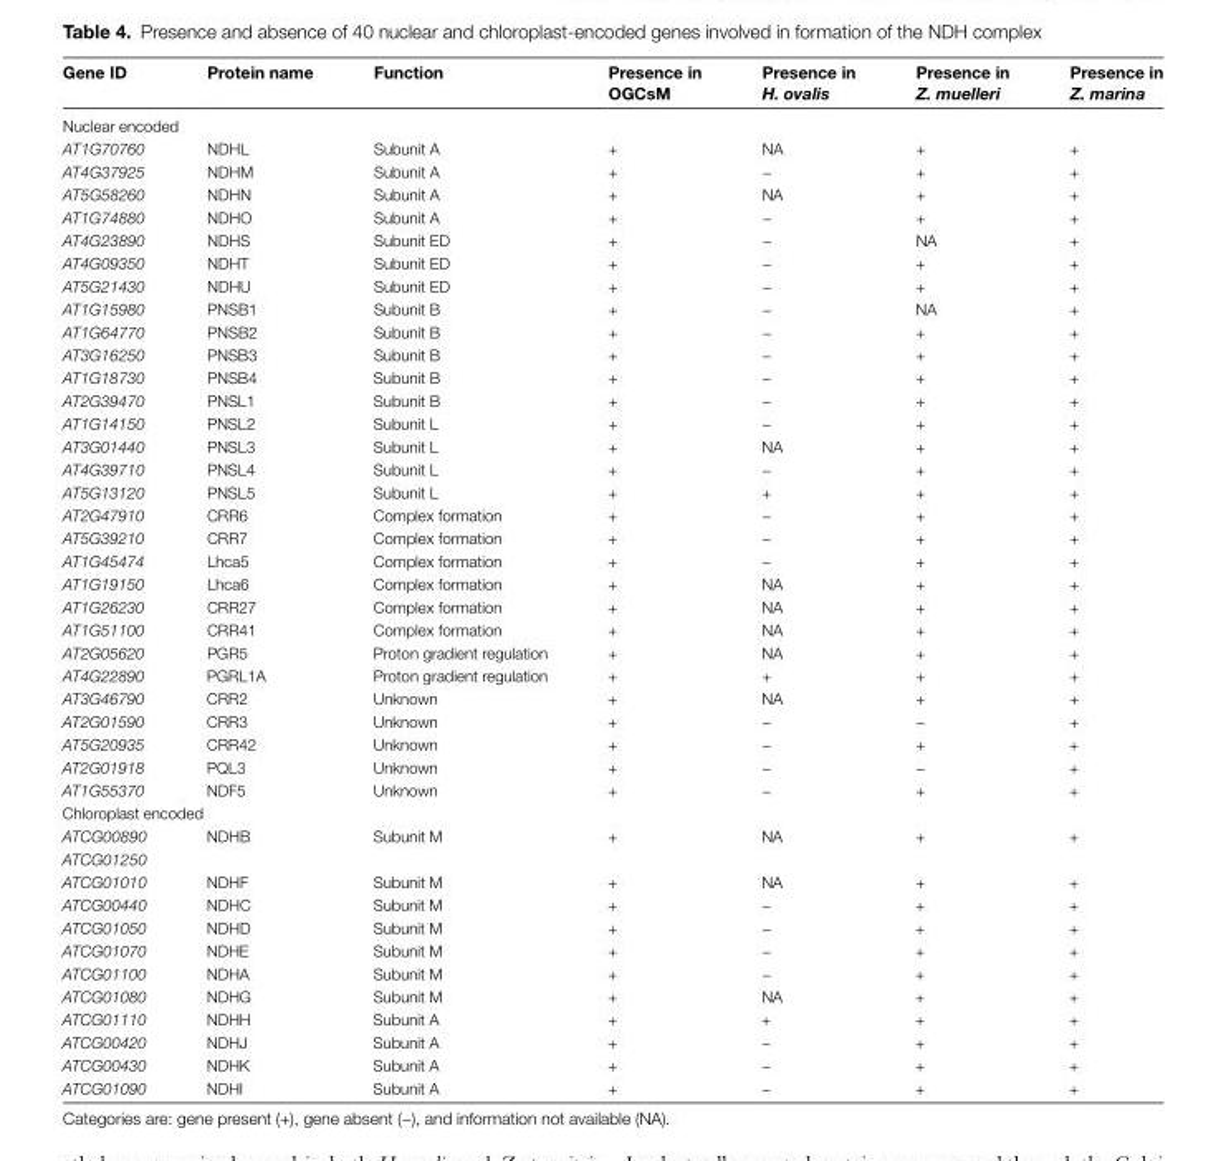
<table><thead><tr><td>Gene ID</td><td>Protein name</td><td>Function</td><td>Presence in OGCsM</td><td>Presence in H. ovalis</td><td>Presence in Z. muelleri</td><td>Presence in Z. marina</td></tr></thead><tbody><tr><td colspan="7">Nuclear encoded</td></tr><tr><td>AT1G70760</td><td>NDHL</td><td>Subunit A</td><td>+</td><td>NA</td><td>+</td><td>+</td></tr><tr><td>AT4G37925</td><td>NDHM</td><td>Subunit A</td><td>+</td><td>−</td><td>+</td><td>+</td></tr><tr><td>AT5G58260</td><td>NDHN</td><td>Subunit A</td><td>+</td><td>NA</td><td>+</td><td>+</td></tr><tr><td>AT1G74880</td><td>NDHO</td><td>Subunit A</td><td>+</td><td>−</td><td>+</td><td>+</td></tr><tr><td>AT4G23890</td><td>NDHS</td><td>Subunit ED</td><td>+</td><td>−</td><td>NA</td><td>+</td></tr><tr><td>AT4G09350</td><td>NDHT</td><td>Subunit ED</td><td>+</td><td>−</td><td>+</td><td>+</td></tr><tr><td>AT5G21430</td><td>NDHU</td><td>Subunit ED</td><td>+</td><td>−</td><td>+</td><td>+</td></tr><tr><td>AT1G15980</td><td>PNSB1</td><td>Subunit B</td><td>+</td><td>−</td><td>NA</td><td>+</td></tr><tr><td>AT1G64770</td><td>PNSB2</td><td>Subunit B</td><td>+</td><td>−</td><td>+</td><td>+</td></tr><tr><td>AT3G16250</td><td>PNSB3</td><td>Subunit B</td><td>+</td><td>−</td><td>+</td><td>+</td></tr><tr><td>AT1G18730</td><td>PNSB4</td><td>Subunit B</td><td>+</td><td>−</td><td>+</td><td>+</td></tr><tr><td>AT2G39470</td><td>PNSL1</td><td>Subunit B</td><td>+</td><td>−</td><td>+</td><td>+</td></tr><tr><td>AT1G14150</td><td>PNSL2</td><td>Subunit L</td><td>+</td><td>−</td><td>+</td><td>+</td></tr><tr><td>AT3G01440</td><td>PNSL3</td><td>Subunit L</td><td>+</td><td>NA</td><td>+</td><td>+</td></tr><tr><td>AT4G39710</td><td>PNSL4</td><td>Subunit L</td><td>+</td><td>−</td><td>+</td><td>+</td></tr><tr><td>AT5G13120</td><td>PNSL5</td><td>Subunit L</td><td>+</td><td>+</td><td>+</td><td>+</td></tr><tr><td>AT2G47910</td><td>CRR6</td><td>Complex formation</td><td>+</td><td>−</td><td>+</td><td>+</td></tr><tr><td>AT5G39210</td><td>CRR7</td><td>Complex formation</td><td>+</td><td>−</td><td>+</td><td>+</td></tr><tr><td>AT1G45474</td><td>Lhca5</td><td>Complex formation</td><td>+</td><td>−</td><td>+</td><td>+</td></tr><tr><td>AT1G19150</td><td>Lhca6</td><td>Complex formation</td><td>+</td><td>NA</td><td>+</td><td>+</td></tr><tr><td>AT1G26230</td><td>CRR27</td><td>Complex formation</td><td>+</td><td>NA</td><td>+</td><td>+</td></tr><tr><td>AT1G51100</td><td>CRR41</td><td>Complex formation</td><td>+</td><td>NA</td><td>+</td><td>+</td></tr><tr><td>AT2G05620</td><td>PGR5</td><td>Proton gradient regulation</td><td>+</td><td>NA</td><td>+</td><td>+</td></tr><tr><td>AT4G22890</td><td>PGRL1A</td><td>Proton gradient regulation</td><td>+</td><td>+</td><td>+</td><td>+</td></tr><tr><td>AT3G46790</td><td>CRR2</td><td>Unknown</td><td>+</td><td>NA</td><td>+</td><td>+</td></tr><tr><td>AT2G01590</td><td>CRR3</td><td>Unknown</td><td>+</td><td>−</td><td>−</td><td>+</td></tr><tr><td>AT5G20935</td><td>CRR42</td><td>Unknown</td><td>+</td><td>−</td><td>+</td><td>+</td></tr><tr><td>AT2G01918</td><td>PQL3</td><td>Unknown</td><td>+</td><td>−</td><td>−</td><td>+</td></tr><tr><td>AT1G55370</td><td>NDF5</td><td>Unknown</td><td>+</td><td>−</td><td>+</td><td>+</td></tr><tr><td colspan="7">Chloroplast encoded</td></tr><tr><td>ATCG00890 ATCG01250</td><td>NDHB</td><td>Subunit M</td><td>+</td><td>NA</td><td>+</td><td>+</td></tr><tr><td>ATCG01010</td><td>NDHF</td><td>Subunit M</td><td>+</td><td>NA</td><td>+</td><td>+</td></tr><tr><td>ATCG00440</td><td>NDHC</td><td>Subunit M</td><td>+</td><td>−</td><td>+</td><td>+</td></tr><tr><td>ATCG01050</td><td>NDHD</td><td>Subunit M</td><td>+</td><td>−</td><td>+</td><td>+</td></tr><tr><td>ATCG01070</td><td>NDHE</td><td>Subunit M</td><td>+</td><td>−</td><td>+</td><td>+</td></tr><tr><td>ATCG01100</td><td>NDHA</td><td>Subunit M</td><td>+</td><td>−</td><td>+</td><td>+</td></tr><tr><td>ATCG01080</td><td>NDHG</td><td>Subunit M</td><td>+</td><td>NA</td><td>+</td><td>+</td></tr><tr><td>ATCG01110</td><td>NDHH</td><td>Subunit A</td><td>+</td><td>+</td><td>+</td><td>+</td></tr><tr><td>ATCG00420</td><td>NDHJ</td><td>Subunit A</td><td>+</td><td>−</td><td>+</td><td>+</td></tr><tr><td>ATCG00430</td><td>NDHK</td><td>Subunit A</td><td>+</td><td>−</td><td>+</td><td>+</td></tr><tr><td>ATCG01090</td><td>NDHI</td><td>Subunit A</td><td>+</td><td>−</td><td>+</td><td>+</td></tr></tbody></table>